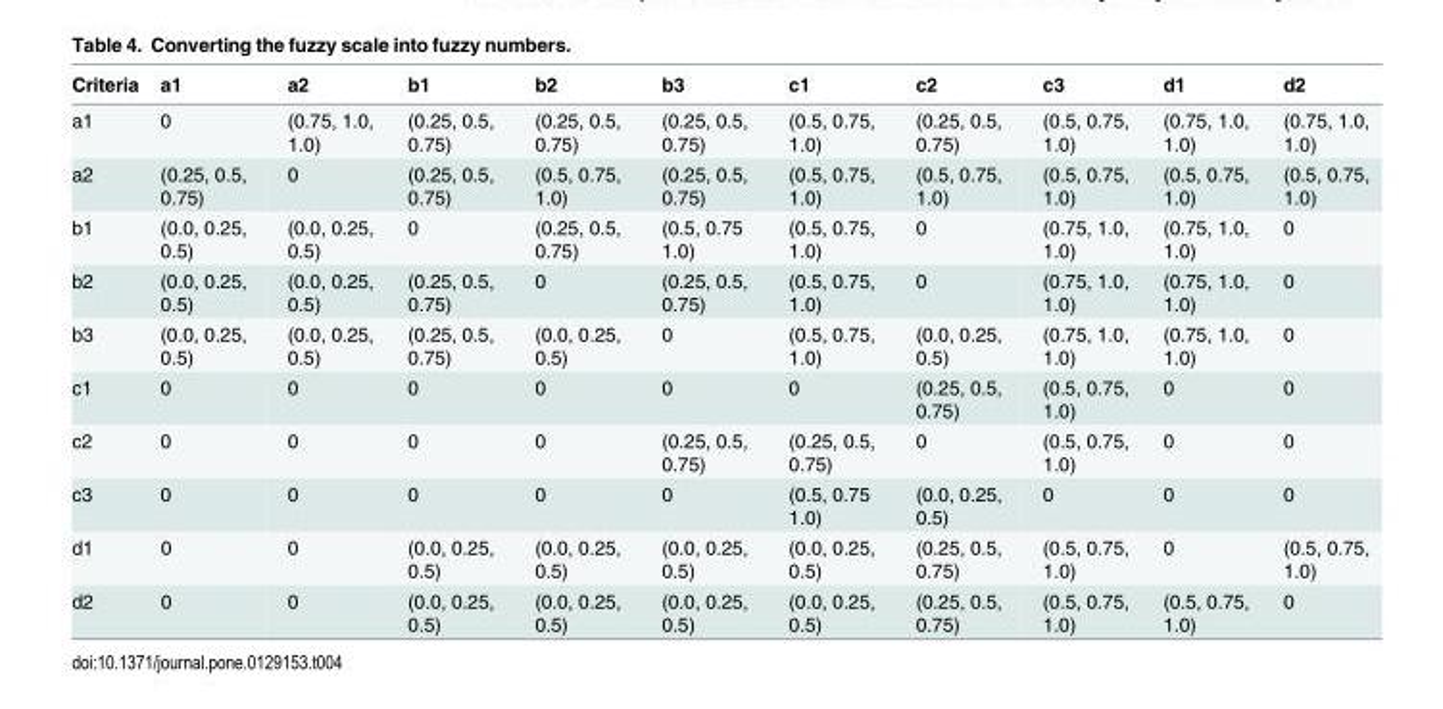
<table><thead><tr><td>Criteria</td><td>a1</td><td>a2</td><td>b1</td><td>b2</td><td>b3</td><td>c1</td><td>c2</td><td>c3</td><td>d1</td><td>d2</td></tr></thead><tbody><tr><td>a1</td><td>0</td><td>(0.75, 1.0, 1.0)</td><td>(0.25, 0.5, 0.75)</td><td>(0.25, 0.5, 0.75)</td><td>(0.25, 0.5, 0.75)</td><td>(0.5, 0.75, 1.0)</td><td>(0.25, 0.5, 0.75)</td><td>(0.5, 0.75, 1.0)</td><td>(0.75, 1.0, 1.0)</td><td>(0.75, 1.0, 1.0)</td></tr><tr><td>a2</td><td>(0.25, 0.5, 0.75)</td><td>0</td><td>(0.25, 0.5, 0.75)</td><td>(0.5, 0.75, 1.0)</td><td>(0.25, 0.5, 0.75)</td><td>(0.5, 0.75, 1.0)</td><td>(0.5, 0.75, 1.0)</td><td>(0.5, 0.75, 1.0)</td><td>(0.5, 0.75, 1.0)</td><td>(0.5, 0.75, 1.0)</td></tr><tr><td>b1</td><td>(0.0, 0.25, 0.5)</td><td>(0.0, 0.25, 0.5)</td><td>0</td><td>(0.25, 0.5, 0.75)</td><td>(0.5, 0.75 1.0)</td><td>(0.5, 0.75, 1.0)</td><td>0</td><td>(0.75, 1.0, 1.0)</td><td>(0.75, 1.0, 1.0)</td><td>0</td></tr><tr><td>b2</td><td>(0.0, 0.25, 0.5)</td><td>(0.0, 0.25, 0.5)</td><td>(0.25, 0.5, 0.75)</td><td>0</td><td>(0.25, 0.5, 0.75)</td><td>(0.5, 0.75, 1.0)</td><td>0</td><td>(0.75, 1.0, 1.0)</td><td>(0.75, 1.0, 1.0)</td><td>0</td></tr><tr><td>b3</td><td>(0.0, 0.25, 0.5)</td><td>(0.0, 0.25, 0.5)</td><td>(0.25, 0.5, 0.75)</td><td>(0.0, 0.25, 0.5)</td><td>0</td><td>(0.5, 0.75, 1.0)</td><td>(0.0, 0.25, 0.5)</td><td>(0.75, 1.0, 1.0)</td><td>(0.75, 1.0, 1.0)</td><td>0</td></tr><tr><td>c1</td><td>0</td><td>0</td><td>0</td><td>0</td><td>0</td><td>0</td><td>(0.25, 0.5, 0.75)</td><td>(0.5, 0.75, 1.0)</td><td>0</td><td>0</td></tr><tr><td>c2</td><td>0</td><td>0</td><td>0</td><td>0</td><td>(0.25, 0.5, 0.75)</td><td>(0.25, 0.5, 0.75)</td><td>0</td><td>(0.5, 0.75, 1.0)</td><td>0</td><td>0</td></tr><tr><td>c3</td><td>0</td><td>0</td><td>0</td><td>0</td><td>0</td><td>(0.5, 0.75 1.0)</td><td>(0.0, 0.25, 0.5)</td><td>0</td><td>0</td><td>0</td></tr><tr><td>d1</td><td>0</td><td>0</td><td>(0.0, 0.25, 0.5)</td><td>(0.0, 0.25, 0.5)</td><td>(0.0, 0.25, 0.5)</td><td>(0.0, 0.25, 0.5)</td><td>(0.25, 0.5, 0.75)</td><td>(0.5, 0.75, 1.0)</td><td>0</td><td>(0.5, 0.75, 1.0)</td></tr><tr><td>d2</td><td>0</td><td>0</td><td>(0.0, 0.25, 0.5)</td><td>(0.0, 0.25, 0.5)</td><td>(0.0, 0.25, 0.5)</td><td>(0.0, 0.25, 0.5)</td><td>(0.25, 0.5, 0.75)</td><td>(0.5, 0.75, 1.0)</td><td>(0.5, 0.75, 1.0)</td><td>0</td></tr></tbody></table>